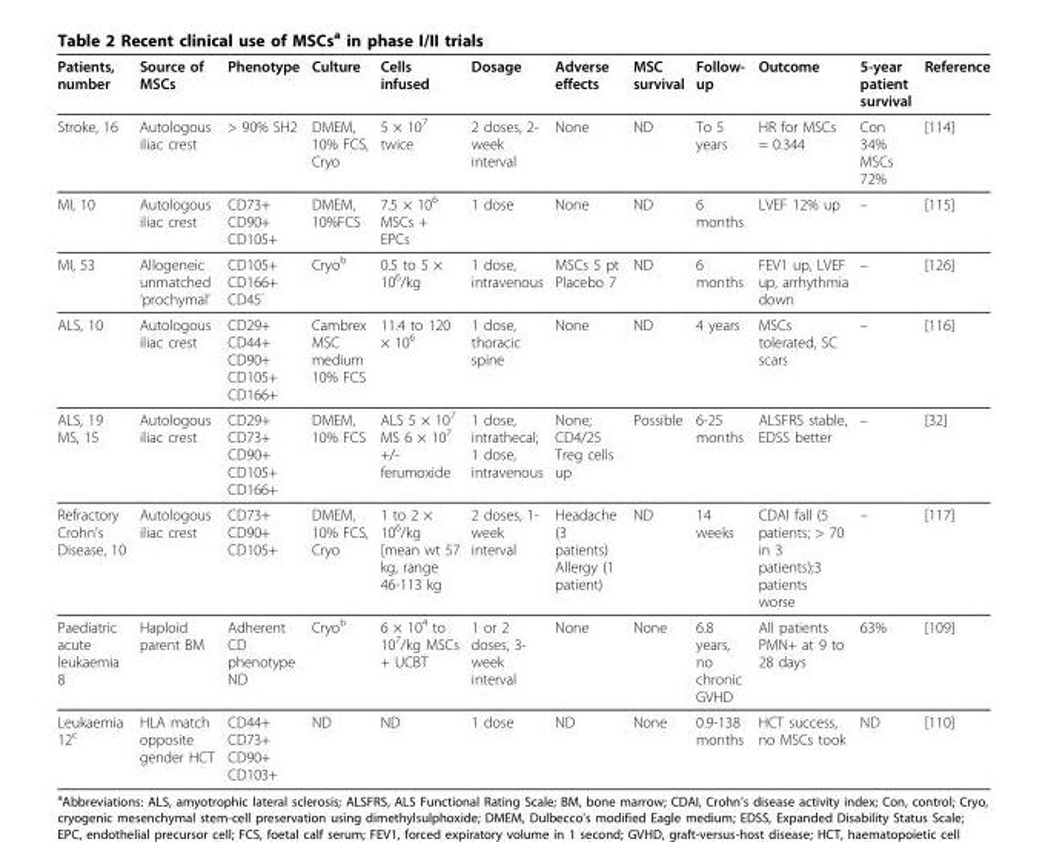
<table><thead><tr><td>Patients, number</td><td>Source of MSCs</td><td>Phenotype</td><td>Culture</td><td>Cells infused</td><td>Dosage</td><td>Adverse effects</td><td>MSC survival</td><td>Follow- up</td><td>Outcome</td><td>5-year patient survival</td><td>Reference</td></tr></thead><tbody><tr><td>Stroke, 16</td><td>Autologous iliac crest</td><td>&gt; 90% SH2</td><td>DMEM, 10% FCS, Cryo</td><td>5 × 10<sup>7</sup> twice</td><td>2 doses, 2- week interval</td><td>None</td><td>ND</td><td>To 5 years</td><td>HR for MSCs = 0.344</td><td>Con 34% MSCs 72%</td><td>[114]</td></tr><tr><td>MI, 10</td><td>Autologous iliac crest</td><td>CD73+ CD90+ CD105+</td><td>DMEM, 10%FCS</td><td>7.5 × 10<sup>6</sup> MSCs + EPCs</td><td>1 dose</td><td>None</td><td>ND</td><td>6 months</td><td>LVEF 12% up</td><td>–</td><td>[115]</td></tr><tr><td>MI, 53</td><td>Allogeneic unmatched ‘prochymal’</td><td>CD105+ CD166+ CD45<sup>-</sup></td><td>Cryo<sup>b</sup></td><td>0.5 to 5 × 10<sup>6</sup>/kg</td><td>1 dose, intravenous</td><td>MSCs 5 pt Placebo 7</td><td>ND</td><td>6 months</td><td>FEV1 up, LVEF up, arrhythmia down</td><td>–</td><td>[126]</td></tr><tr><td>ALS, 10</td><td>Autologous iliac crest</td><td>CD29+ CD44+ CD90+ CD105+ CD166+</td><td>Cambrex MSC medium 10% FCS</td><td>11.4 to 120 × 10<sup>6</sup></td><td>1 dose, thoracic spine</td><td>None</td><td>ND</td><td>4 years</td><td>MSCs tolerated, SC scars</td><td>–</td><td>[116]</td></tr><tr><td>ALS, 19 MS, 15</td><td>Autologous iliac crest</td><td>CD29+ CD73+ CD90+ CD105+ CD166+</td><td>DMEM, 10% FCS</td><td>ALS 5 × 10<sup>7</sup> MS 6 × 10<sup>7</sup> +/- ferumoxide</td><td>1 dose, intrathecal; 1 dose, intravenous</td><td>None; CD4/25 Treg cells up</td><td>Possible</td><td>6-25 months</td><td>ALSFRS stable, EDSS better</td><td>–</td><td>[32]</td></tr><tr><td>Refractory Crohn’s Disease, 10</td><td>Autologous iliac crest</td><td>CD73+ CD90+ CD105+</td><td>DMEM, 10% FCS, Cryo</td><td>1 to 2 × 10<sup>6</sup>/kg [mean wt 57 kg, range 46-113 kg</td><td>2 doses, 1- week interval</td><td>Headache (3 patients) Allergy (1 patient)</td><td>ND</td><td>14 weeks</td><td>CDAI fall (5 patients; &gt; 70 in 3 patients);3 patients worse</td><td>–</td><td>[117]</td></tr><tr><td>Paediatric acute leukaemia 8</td><td>Haploid parent BM</td><td>Adherent CD phenotype ND</td><td>Cryo<sup>b</sup></td><td>6 × 10<sup>4</sup> to 10<sup>7</sup>/kg MSCs + UCBT</td><td>1 or 2 doses, 3- week interval</td><td>None</td><td>None</td><td>6.8 years, no chronic GVHD</td><td>All patients PMN+ at 9 to 28 days</td><td>63%</td><td>[109]</td></tr><tr><td>Leukaemia 12<sup>c</sup></td><td>HLA match opposite gender HCT</td><td>CD44+ CD73+ CD90+ CD103+</td><td>ND</td><td>ND</td><td>1 dose</td><td>ND</td><td>None</td><td>0.9-138 months</td><td>HCT success, no MSCs took</td><td>ND</td><td>[110]</td></tr></tbody></table>